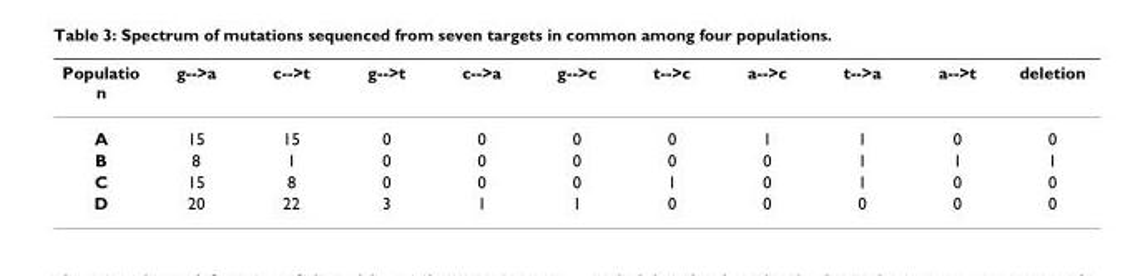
<table><thead><tr><td>Populatio n</td><td>g--&gt;a</td><td>c--&gt;t</td><td>g--&gt;t</td><td>c--&gt;a</td><td>g--&gt;c</td><td>t--&gt;c</td><td>a--&gt;c</td><td>t--&gt;a</td><td>a--&gt;t</td><td>deletion</td></tr></thead><tbody><tr><td>A</td><td>15</td><td>15</td><td>0</td><td>0</td><td>0</td><td>0</td><td>1</td><td>1</td><td>0</td><td>0</td></tr><tr><td>B</td><td>8</td><td>1</td><td>0</td><td>0</td><td>0</td><td>0</td><td>0</td><td>1</td><td>1</td><td>1</td></tr><tr><td>C</td><td>15</td><td>8</td><td>0</td><td>0</td><td>0</td><td>1</td><td>0</td><td>1</td><td>0</td><td>0</td></tr><tr><td>D</td><td>20</td><td>22</td><td>3</td><td>1</td><td>1</td><td>0</td><td>0</td><td>0</td><td>0</td><td>0</td></tr></tbody></table>